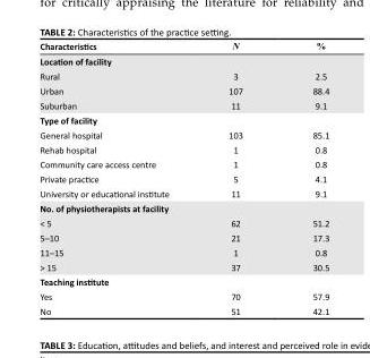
<table><thead><tr><td>Characteristics</td><td>N</td><td>%</td></tr></thead><tbody><tr><td colspan="3">Location of facility</td></tr><tr><td>Rural</td><td>3</td><td>2.5</td></tr><tr><td>Urban</td><td>107</td><td>88.4</td></tr><tr><td>Suburban</td><td>11</td><td>9.1</td></tr><tr><td colspan="3">Type of facility</td></tr><tr><td>General hospital</td><td>103</td><td>85.1</td></tr><tr><td>Rehab hospital</td><td>1</td><td>0.8</td></tr><tr><td>Community care access centre</td><td>1</td><td>0.8</td></tr><tr><td>Private practice</td><td>5</td><td>4.1</td></tr><tr><td>University or educational institute</td><td>11</td><td>9.1</td></tr><tr><td colspan="3">No. of physiotherapists at facility</td></tr><tr><td>&lt; 5</td><td>62</td><td>51.2</td></tr><tr><td>5–10</td><td>21</td><td>17.3</td></tr><tr><td>11–15</td><td>1</td><td>0.8</td></tr><tr><td>&gt; 15</td><td>37</td><td>30.5</td></tr><tr><td colspan="3">Teaching institute</td></tr><tr><td>Yes</td><td>70</td><td>57.9</td></tr><tr><td>No</td><td>51</td><td>42.1</td></tr></tbody></table>